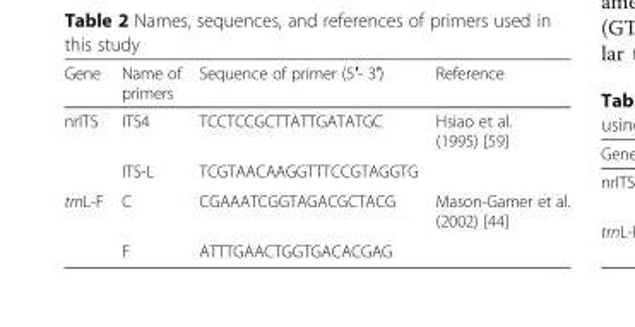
<table><thead><tr><td>Gene</td><td>Name of primers</td><td>Sequence of primer (5′- 3′)</td><td>Reference</td></tr></thead><tbody><tr><td rowspan="2">nrITS</td><td>ITS4</td><td>TCCTCCGCTTATTGATATGC</td><td>Hsiao et al. (1995) [59]</td></tr><tr><td>ITS-L</td><td>TCGTAACAAGGTTTCCGTAGGTG</td><td></td></tr><tr><td rowspan="2">trnL-F</td><td>C</td><td>CGAAATCGGTAGACGCTACG</td><td>Mason-Gamer et al. (2002) [44]</td></tr><tr><td>F</td><td>ATTTGAACTGGTGACACGAG</td><td></td></tr></tbody></table>